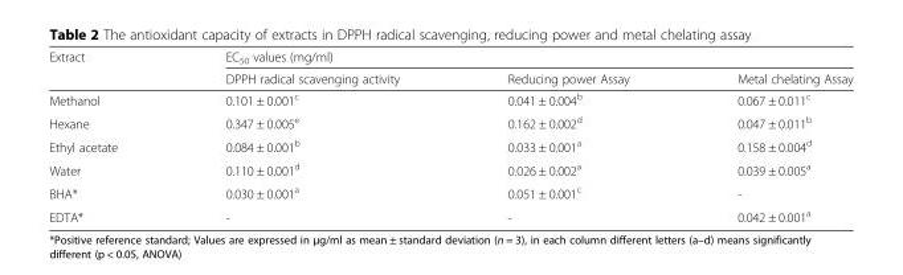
<table><thead><tr><td rowspan="2">Extract</td><td colspan="3">EC<sub>50</sub> values (mg/ml)</td></tr><tr><td>DPPH radical scavenging activity</td><td>Reducing power Assay</td><td>Metal chelating Assay</td></tr></thead><tbody><tr><td>Methanol</td><td>0.101 ± 0.001<sup>c</sup></td><td>0.041 ± 0.004<sup>b</sup></td><td>0.067 ± 0.011<sup>c</sup></td></tr><tr><td>Hexane</td><td>0.347 ± 0.005<sup>e</sup></td><td>0.162 ± 0.002<sup>d</sup></td><td>0.047 ± 0.011<sup>b</sup></td></tr><tr><td>Ethyl acetate</td><td>0.084 ± 0.001<sup>b</sup></td><td>0.033 ± 0.001<sup>a</sup></td><td>0.158 ± 0.004<sup>d</sup></td></tr><tr><td>Water</td><td>0.110 ± 0.001<sup>d</sup></td><td>0.026 ± 0.002<sup>a</sup></td><td>0.039 ± 0.005<sup>a</sup></td></tr><tr><td>BHA*</td><td>0.030 ± 0.001<sup>a</sup></td><td>0.051 ± 0.001<sup>c</sup></td><td>-</td></tr><tr><td>EDTA*</td><td>-</td><td>-</td><td>0.042 ± 0.001<sup>a</sup></td></tr></tbody></table>